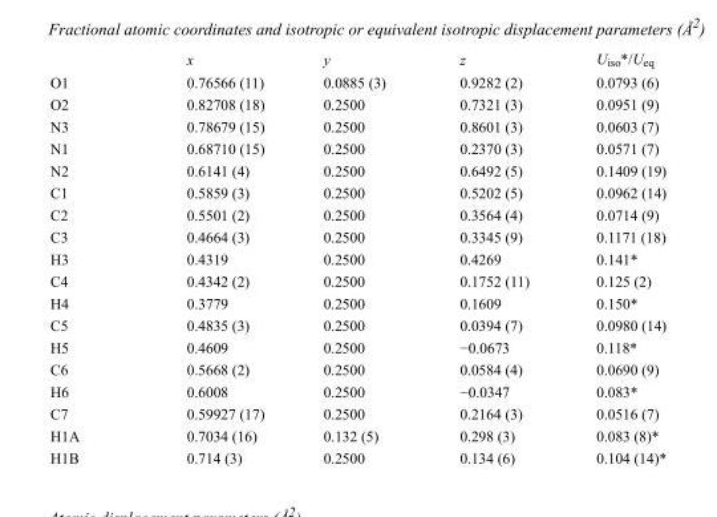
<table><thead><tr><td></td><td>x</td><td>y</td><td>z</td><td>U<sub>iso</sub>*/U<sub>eq</sub></td></tr></thead><tbody><tr><td>O1</td><td>0.76566 (11)</td><td>0.0885 (3)</td><td>0.9282 (2)</td><td>0.0793 (6)</td></tr><tr><td>O2</td><td>0.82708 (18)</td><td>0.2500</td><td>0.7321 (3)</td><td>0.0951 (9)</td></tr><tr><td>N3</td><td>0.78679 (15)</td><td>0.2500</td><td>0.8601 (3)</td><td>0.0603 (7)</td></tr><tr><td>N1</td><td>0.68710 (15)</td><td>0.2500</td><td>0.2370 (3)</td><td>0.0571 (7)</td></tr><tr><td>N2</td><td>0.6141 (4)</td><td>0.2500</td><td>0.6492 (5)</td><td>0.1409 (19)</td></tr><tr><td>C1</td><td>0.5859 (3)</td><td>0.2500</td><td>0.5202 (5)</td><td>0.0962 (14)</td></tr><tr><td>C2</td><td>0.5501 (2)</td><td>0.2500</td><td>0.3564 (4)</td><td>0.0714 (9)</td></tr><tr><td>C3</td><td>0.4664 (3)</td><td>0.2500</td><td>0.3345 (9)</td><td>0.1171 (18)</td></tr><tr><td>H3</td><td>0.4319</td><td>0.2500</td><td>0.4269</td><td>0.141*</td></tr><tr><td>C4</td><td>0.4342 (2)</td><td>0.2500</td><td>0.1752 (11)</td><td>0.125 (2)</td></tr><tr><td>H4</td><td>0.3779</td><td>0.2500</td><td>0.1609</td><td>0.150*</td></tr><tr><td>C5</td><td>0.4835 (3)</td><td>0.2500</td><td>0.0394 (7)</td><td>0.0980 (14)</td></tr><tr><td>H5</td><td>0.4609</td><td>0.2500</td><td>−0.0673</td><td>0.118*</td></tr><tr><td>C6</td><td>0.5668 (2)</td><td>0.2500</td><td>0.0584 (4)</td><td>0.0690 (9)</td></tr><tr><td>H6</td><td>0.6008</td><td>0.2500</td><td>−0.0347</td><td>0.083*</td></tr><tr><td>C7</td><td>0.59927 (17)</td><td>0.2500</td><td>0.2164 (3)</td><td>0.0516 (7)</td></tr><tr><td>H1A</td><td>0.7034 (16)</td><td>0.132 (5)</td><td>0.298 (3)</td><td>0.083 (8)*</td></tr><tr><td>H1B</td><td>0.714 (3)</td><td>0.2500</td><td>0.134 (6)</td><td>0.104 (14)*</td></tr></tbody></table>